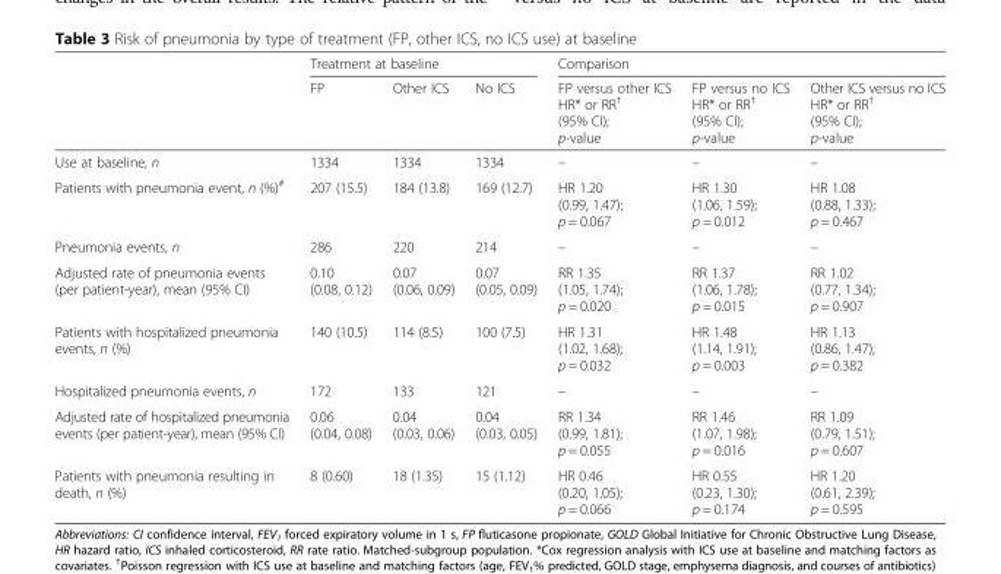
<table><thead><tr><td rowspan="2"></td><td colspan="3">Treatment at baseline</td><td colspan="3">Comparison</td></tr><tr><td>FP</td><td>Other ICS</td><td>No ICS</td><td>FP versus other ICS HR* or RR<sup>†</sup> (95% CI); p-value</td><td>FP versus no ICS HR* or RR<sup>†</sup> (95% CI); p-value</td><td>Other ICS versus no ICS HR* or RR<sup>†</sup> (95% CI); p-value</td></tr></thead><tbody><tr><td>Use at baseline, n</td><td>1334</td><td>1334</td><td>1334</td><td>–</td><td>–</td><td>–</td></tr><tr><td>Patients with pneumonia event, n (%)<sup>#</sup></td><td>207 (15.5)</td><td>184 (13.8)</td><td>169 (12.7)</td><td>HR 1.20 (0.99, 1.47); p = 0.067</td><td>HR 1.30 (1.06, 1.59); p = 0.012</td><td>HR 1.08 (0.88, 1.33); p = 0.467</td></tr><tr><td>Pneumonia events, n</td><td>286</td><td>220</td><td>214</td><td>–</td><td>–</td><td>–</td></tr><tr><td>Adjusted rate of pneumonia events (per patient-year), mean (95% CI)</td><td>0.10 (0.08, 0.12)</td><td>0.07 (0.06, 0.09)</td><td>0.07 (0.05, 0.09)</td><td>RR 1.35 (1.05, 1.74); p = 0.020</td><td>RR 1.37 (1.06, 1.78); p = 0.015</td><td>RR 1.02 (0.77, 1.34); p = 0.907</td></tr><tr><td>Patients with hospitalized pneumonia events, n (%)</td><td>140 (10.5)</td><td>114 (8.5)</td><td>100 (7.5)</td><td>HR 1.31 (1.02, 1.68); p = 0.032</td><td>HR 1.48 (1.14, 1.91); p = 0.003</td><td>HR 1.13 (0.86, 1.47); p = 0.382</td></tr><tr><td>Hospitalized pneumonia events, n</td><td>172</td><td>133</td><td>121</td><td>–</td><td>–</td><td>–</td></tr><tr><td>Adjusted rate of hospitalized pneumonia events (per patient-year), mean (95% CI)</td><td>0.06 (0.04, 0.08)</td><td>0.04 (0.03, 0.06)</td><td>0.04 (0.03, 0.05)</td><td>RR 1.34 (0.99, 1.81); p = 0.055</td><td>RR 1.46 (1.07, 1.98); p = 0.016</td><td>RR 1.09 (0.79, 1.51); p = 0.607</td></tr><tr><td>Patients with pneumonia resulting in death, n (%)</td><td>8 (0.60)</td><td>18 (1.35)</td><td>15 (1.12)</td><td>HR 0.46 (0.20, 1.05); p = 0.066</td><td>HR 0.55 (0.23, 1.30); p = 0.174</td><td>HR 1.20 (0.61, 2.39); p = 0.595</td></tr></tbody></table>